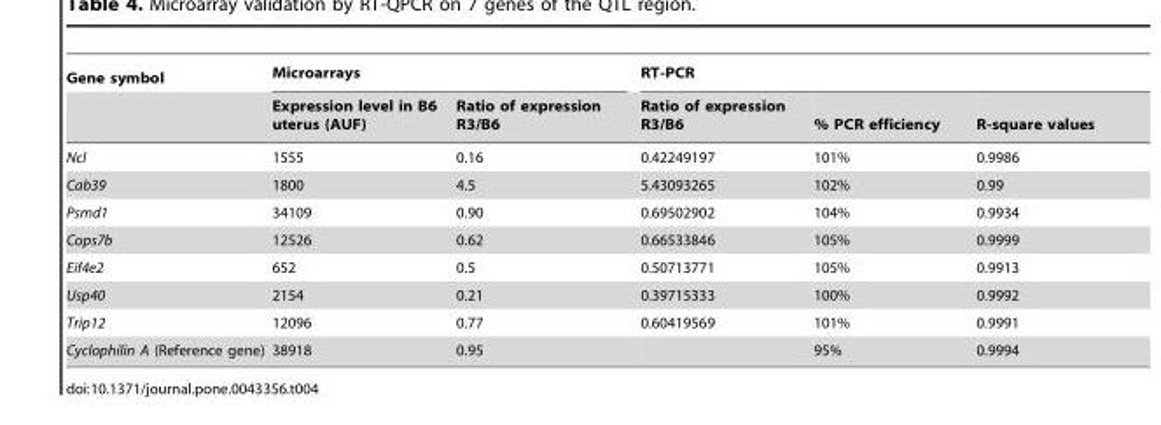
<table><thead><tr><td rowspan="2">Gene symbol</td><td colspan="2">Microarrays</td><td colspan="3">RT-PCR</td></tr><tr><td>Expression level in B6 uterus (AUF)</td><td>Ratio of expression R3/B6</td><td>Ratio of expression R3/B6</td><td>% PCR efficiency</td><td>R-square values</td></tr></thead><tbody><tr><td>Ncl</td><td>1555</td><td>0.16</td><td>0.42249197</td><td>101%</td><td>0.9986</td></tr><tr><td>Cab39</td><td>1800</td><td>4.5</td><td>5.43093265</td><td>102%</td><td>0.99</td></tr><tr><td>Psmd1</td><td>34109</td><td>0.90</td><td>0.69502902</td><td>104%</td><td>0.9934</td></tr><tr><td>Cops7b</td><td>12526</td><td>0.62</td><td>0.66533846</td><td>105%</td><td>0.9999</td></tr><tr><td>Eif4e2</td><td>652</td><td>0.5</td><td>0.50713771</td><td>105%</td><td>0.9913</td></tr><tr><td>Usp40</td><td>2154</td><td>0.21</td><td>0.39715333</td><td>100%</td><td>0.9992</td></tr><tr><td>Trip12</td><td>12096</td><td>0.77</td><td>0.60419569</td><td>101%</td><td>0.9991</td></tr><tr><td>Cyclophilin A (Reference gene)</td><td>38918</td><td>0.95</td><td></td><td>95%</td><td>0.9994</td></tr></tbody></table>